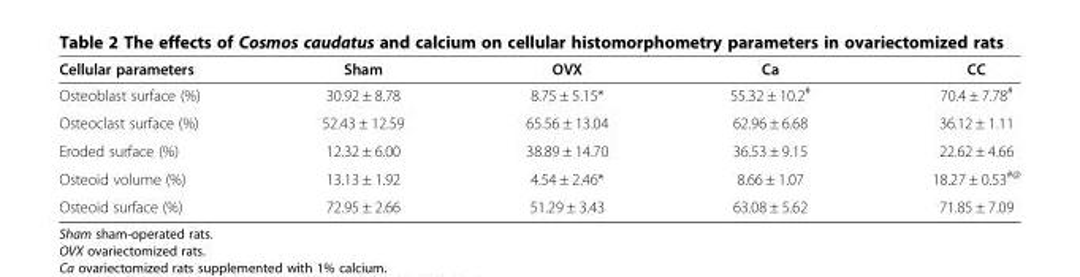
<table><thead><tr><td>Cellular parameters</td><td>Sham</td><td>OVX</td><td>Ca</td><td>CC</td></tr></thead><tbody><tr><td>Osteoblast surface (%)</td><td>30.92 ± 8.78</td><td>8.75 ± 5.15*</td><td>55.32 ± 10.2<sup>#</sup></td><td>70.4 ± 7.78<sup>#</sup></td></tr><tr><td>Osteoclast surface (%)</td><td>52.43 ± 12.59</td><td>65.56 ± 13.04</td><td>62.96 ± 6.68</td><td>36.12 ± 1.11</td></tr><tr><td>Eroded surface (%)</td><td>12.32 ± 6.00</td><td>38.89 ± 14.70</td><td>36.53 ± 9.15</td><td>22.62 ± 4.66</td></tr><tr><td>Osteoid volume (%)</td><td>13.13 ± 1.92</td><td>4.54 ± 2.46*</td><td>8.66 ± 1.07</td><td>18.27 ± 0.53<sup>#@</sup></td></tr><tr><td>Osteoid surface (%)</td><td>72.95 ± 2.66</td><td>51.29 ± 3.43</td><td>63.08 ± 5.62</td><td>71.85 ± 7.09</td></tr></tbody></table>